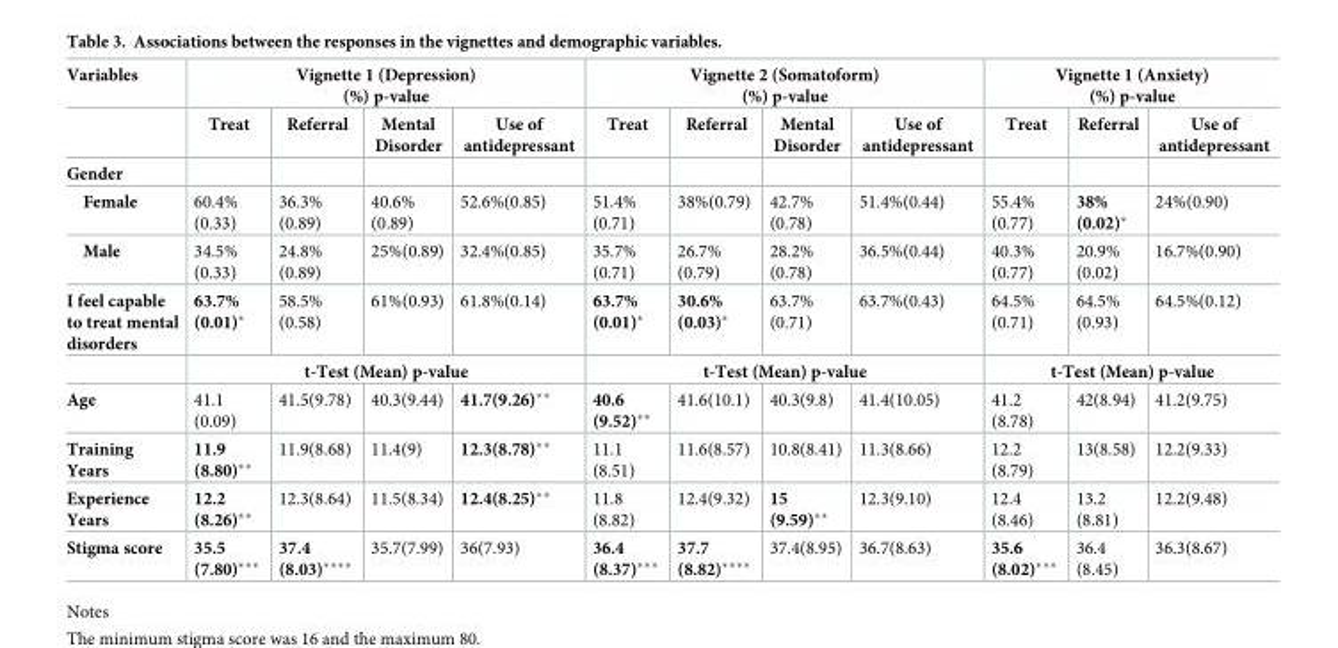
<table><thead><tr><td rowspan="2">Variables</td><td colspan="4">Vignette 1 (Depression) (%) p-value</td><td colspan="4">Vignette 2 (Somatoform) (%) p-value</td><td colspan="3">Vignette 1 (Anxiety) (%) p-value</td></tr><tr><td>Treat</td><td>Referral</td><td>Mental Disorder</td><td>Use of antidepressant</td><td>Treat</td><td>Referral</td><td>Mental Disorder</td><td>Use of antidepressant</td><td>Treat</td><td>Referral</td><td>Use of antidepressant</td></tr></thead><tbody><tr><td colspan="12">Gender</td></tr><tr><td>Female</td><td>60.4% (0.33)</td><td>36.3% (0.89)</td><td>40.6% (0.89)</td><td>52.6%(0.85)</td><td>51.4% (0.71)</td><td>38%(0.79)</td><td>42.7% (0.78)</td><td>51.4%(0.44)</td><td>55.4% (0.77)</td><td>38% (0.02)*</td><td>24%(0.90)</td></tr><tr><td>Male</td><td>34.5% (0.33)</td><td>24.8% (0.89)</td><td>25%(0.89)</td><td>32.4%(0.85)</td><td>35.7% (0.71)</td><td>26.7% (0.79)</td><td>28.2% (0.78)</td><td>36.5%(0.44)</td><td>40.3% (0.77)</td><td>20.9% (0.02)</td><td>16.7%(0.90)</td></tr><tr><td rowspan="2">I feel capable to treat mental disorders</td><td>63.7% (0.01)*</td><td>58.5% (0.58)</td><td>61%(0.93)</td><td>61.8%(0.14)</td><td>63.7% (0.01)*</td><td>30.6% (0.03)*</td><td>63.7% (0.71)</td><td>63.7%(0.43)</td><td>64.5% (0.71)</td><td>64.5% (0.93)</td><td>64.5%(0.12)</td></tr><tr><td colspan="4">t-Test (Mean) p-value</td><td colspan="4">t-Test (Mean) p-value</td><td colspan="3">t-Test (Mean) p-value</td></tr><tr><td>Age</td><td>41.1 (0.09)</td><td>41.5(9.78)</td><td>40.3(9.44)</td><td>41.7(9.26)**</td><td>40.6 (9.52)**</td><td>41.6(10.1)</td><td>40.3(9.8)</td><td>41.4(10.05)</td><td>41.2 (8.78)</td><td>42(8.94)</td><td>41.2(9.75)</td></tr><tr><td>Training Years</td><td>11.9 (8.80)**</td><td>11.9(8.68)</td><td>11.4(9)</td><td>12.3(8.78)**</td><td>11.1 (8.51)</td><td>11.6(8.57)</td><td>10.8(8.41)</td><td>11.3(8.66)</td><td>12.2 (8.79)</td><td>13(8.58)</td><td>12.2(9.33)</td></tr><tr><td>Experience Years</td><td>12.2 (8.26)**</td><td>12.3(8.64)</td><td>11.5(8.34)</td><td>12.4(8.25)**</td><td>11.8 (8.82)</td><td>12.4(9.32)</td><td>15 (9.59)**</td><td>12.3(9.10)</td><td>12.4 (8.46)</td><td>13.2 (8.81)</td><td>12.2(9.48)</td></tr><tr><td>Stigma score</td><td>35.5 (7.80)***</td><td>37.4 (8.03)****</td><td>35.7(7.99)</td><td>36(7.93)</td><td>36.4 (8.37)***</td><td>37.7 (8.82)****</td><td>37.4(8.95)</td><td>36.7(8.63)</td><td>35.6 (8.02)***</td><td>36.4 (8.45)</td><td>36.3(8.67)</td></tr></tbody></table>